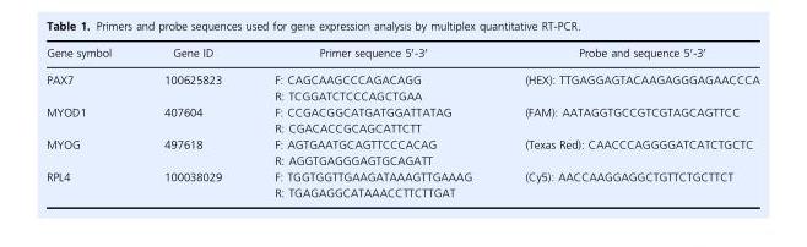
<table><thead><tr><td>Gene symbol</td><td>Gene ID</td><td>Primer sequence 5′-3′</td><td>Probe and sequence 5′-3′</td></tr></thead><tbody><tr><td>PAX7</td><td>100625823</td><td>F: CAGCAAGCCCAGACAGG R: TCGGATCTCCCAGCTGAA</td><td>(HEX): TTGAGGAGTACAAGAGGGAGAACCCA</td></tr><tr><td>MYOD1</td><td>407604</td><td>F: CCGACGGCATGATGGATTATAG R: CGACACCGCAGCATTCTT</td><td>(FAM): AATAGGTGCCGTCGTAGCAGTTCC</td></tr><tr><td>MYOG</td><td>497618</td><td>F: AGTGAATGCAGTTCCCACAG R: AGGTGAGGGAGTGCAGATT</td><td>(Texas Red): CAACCCAGGGGATCATCTGCTC</td></tr><tr><td>RPL4</td><td>100038029</td><td>F: TGGTGGTTGAAGATAAAGTTGAAAG R: TGAGAGGCATAAACCTTCTTGAT</td><td>(Cy5): AACCAAGGAGGCTGTTCTGCTTCT</td></tr></tbody></table>